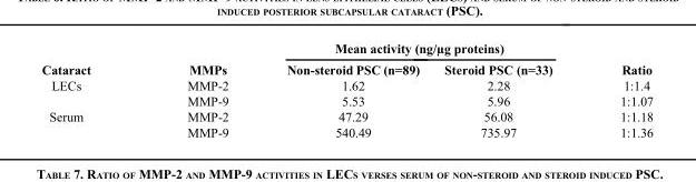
<table><thead><tr><td rowspan="2">Cataract</td><td rowspan="2">MMPs</td><td colspan="2">Mean activity (ng/µg proteins)</td><td rowspan="2">Ratio</td></tr><tr><td>Non-steroid PSC (n=89)</td><td>Steroid PSC (n=33)</td></tr></thead><tbody><tr><td rowspan="2">LECs</td><td>MMP-2</td><td>1.62</td><td>2.28</td><td>1:1.4</td></tr><tr><td>MMP-9</td><td>5.53</td><td>5.96</td><td>1:1.07</td></tr><tr><td rowspan="2">Serum</td><td>MMP-2</td><td>47.29</td><td>56.08</td><td>1:1.18</td></tr><tr><td>MMP-9</td><td>540.49</td><td>735.97</td><td>1:1.36</td></tr></tbody></table>